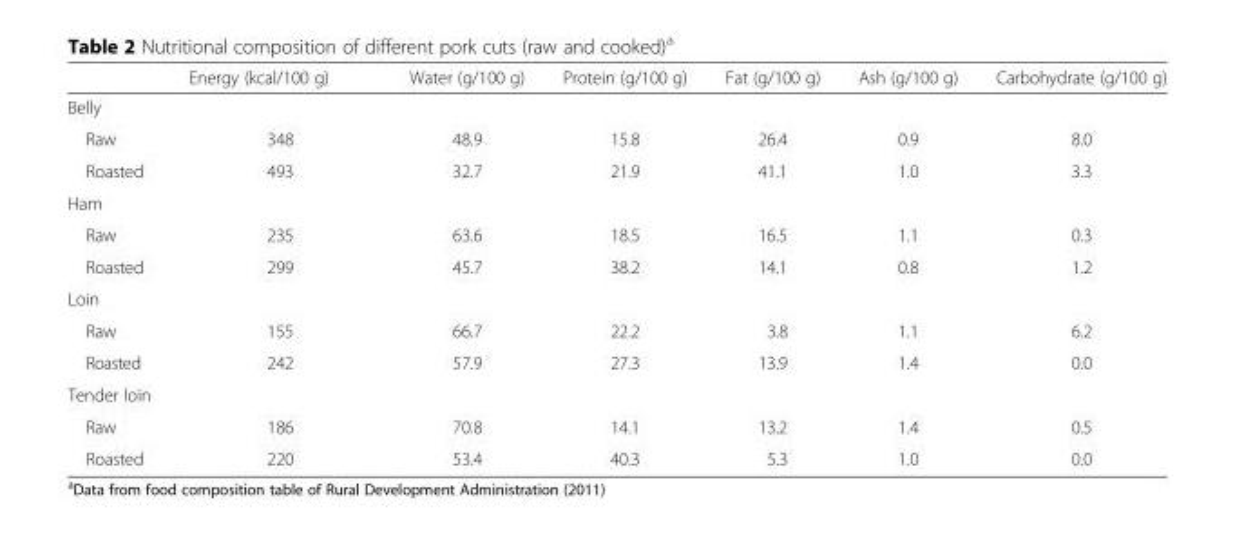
<table><thead><tr><td></td><td>Energy (kcal/100 g)</td><td>Water (g/100 g)</td><td>Protein (g/100 g)</td><td>Fat (g/100 g)</td><td>Ash (g/100 g)</td><td>Carbohydrate (g/100 g)</td></tr></thead><tbody><tr><td colspan="7">Belly</td></tr><tr><td>Raw</td><td>348</td><td>48.9</td><td>15.8</td><td>26.4</td><td>0.9</td><td>8.0</td></tr><tr><td>Roasted</td><td>493</td><td>32.7</td><td>21.9</td><td>41.1</td><td>1.0</td><td>3.3</td></tr><tr><td colspan="7">Ham</td></tr><tr><td>Raw</td><td>235</td><td>63.6</td><td>18.5</td><td>16.5</td><td>1.1</td><td>0.3</td></tr><tr><td>Roasted</td><td>299</td><td>45.7</td><td>38.2</td><td>14.1</td><td>0.8</td><td>1.2</td></tr><tr><td colspan="7">Loin</td></tr><tr><td>Raw</td><td>155</td><td>66.7</td><td>22.2</td><td>3.8</td><td>1.1</td><td>6.2</td></tr><tr><td>Roasted</td><td>242</td><td>57.9</td><td>27.3</td><td>13.9</td><td>1.4</td><td>0.0</td></tr><tr><td colspan="7">Tender loin</td></tr><tr><td>Raw</td><td>186</td><td>70.8</td><td>14.1</td><td>13.2</td><td>1.4</td><td>0.5</td></tr><tr><td>Roasted</td><td>220</td><td>53.4</td><td>40.3</td><td>5.3</td><td>1.0</td><td>0.0</td></tr></tbody></table>